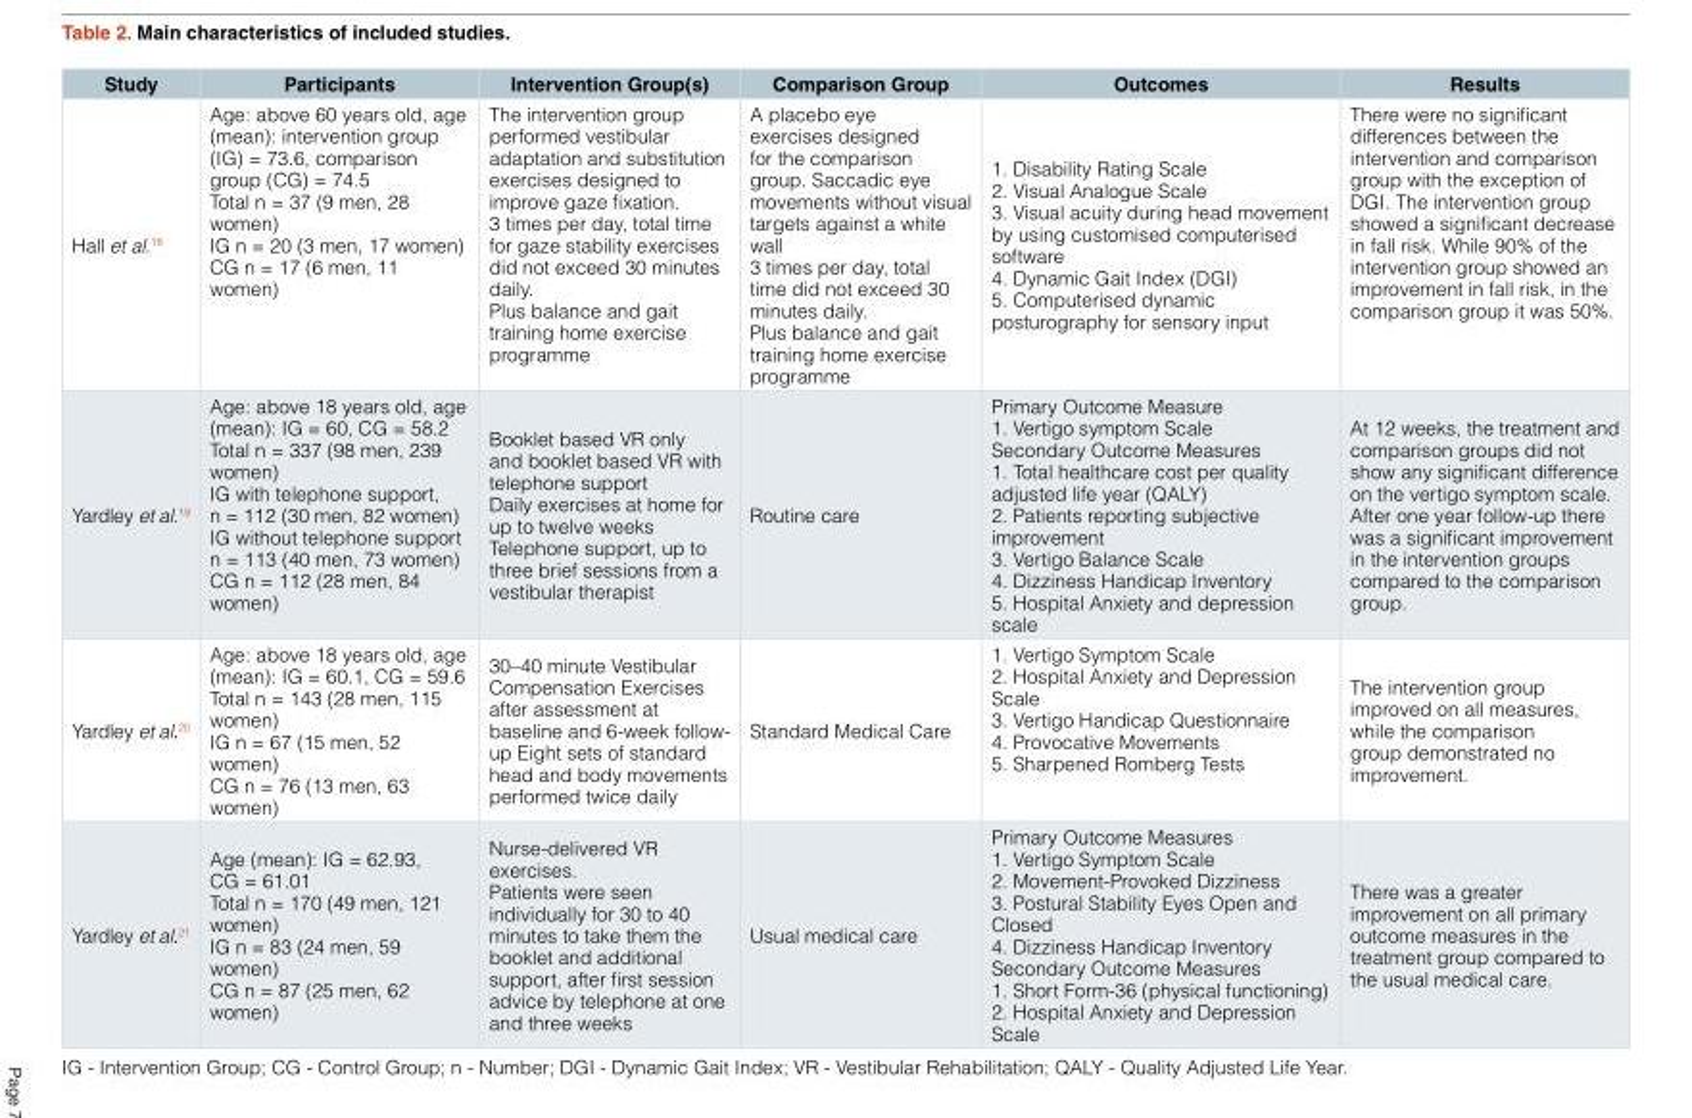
<table><thead><tr><td>Study</td><td>Participants</td><td>Intervention Group(s)</td><td>Comparison Group</td><td>Outcomes</td><td>Results</td></tr></thead><tbody><tr><td>Hall et al.<sup>18</sup></td><td>Age: above 60 years old, age (mean): intervention group (IG) = 73.6, comparison group (CG) = 74.5 Total n = 37 (9 men, 28 women) IG n = 20 (3 men, 17 women) CG n = 17 (6 men, 11 women)</td><td>The intervention group performed vestibular adaptation and substitution exercises designed to improve gaze fixation. 3 times per day, total time for gaze stability exercises did not exceed 30 minutes daily. Plus balance and gait training home exercise programme</td><td>A placebo eye exercises designed for the comparison group. Saccadic eye movements without visual targets against a white wall 3 times per day, total time did not exceed 30 minutes daily. Plus balance and gait training home exercise programme</td><td>1. Disability Rating Scale 2. Visual Analogue Scale 3. Visual acuity during head movement by using customised computerised software 4. Dynamic Gait Index (DGI) 5. Computerised dynamic posturography for sensory input</td><td>There were no significant differences between the intervention and comparison group with the exception of DGI. The intervention group showed a significant decrease in fall risk. While 90% of the intervention group showed an improvement in fall risk, in the comparison group it was 50%.</td></tr><tr><td>Yardley et al.<sup>19</sup></td><td>Age: above 18 years old, age (mean): IG = 60, CG = 58.2 Total n = 337 (98 men, 239 women) IG with telephone support, n = 112 (30 men, 82 women) IG without telephone support n = 113 (40 men, 73 women) CG n = 112 (28 men, 84 women)</td><td>Booklet based VR only and booklet based VR with telephone support Daily exercises at home for up to twelve weeks Telephone support, up to three brief sessions from a vestibular therapist</td><td>Routine care</td><td>Primary Outcome Measure 1. Vertigo symptom Scale Secondary Outcome Measures 1. Total healthcare cost per quality adjusted life year (QALY) 2. Patients reporting subjective improvement 3. Vertigo Balance Scale 4. Dizziness Handicap Inventory 5. Hospital Anxiety and depression scale</td><td>At 12 weeks, the treatment and comparison groups did not show any significant difference on the vertigo symptom scale. After one year follow-up there was a significant improvement in the intervention groups compared to the comparison group.</td></tr><tr><td>Yardley et al.<sup>20</sup></td><td>Age: above 18 years old, age (mean): IG = 60.1, CG = 59.6 Total n = 143 (28 men, 115 women) IG n = 67 (15 men, 52 women) CG n = 76 (13 men, 63 women)</td><td>30–40 minute Vestibular Compensation Exercises after assessment at baseline and 6-week follow- up Eight sets of standard head and body movements performed twice daily</td><td>Standard Medical Care</td><td>1. Vertigo Symptom Scale 2. Hospital Anxiety and Depression Scale 3. Vertigo Handicap Questionnaire 4. Provocative Movements 5. Sharpened Romberg Tests</td><td>The intervention group improved on all measures, while the comparison group demonstrated no improvement.</td></tr><tr><td>Yardley et al.<sup>21</sup></td><td>Age (mean): IG = 62.93, CG = 61.01 Total n = 170 (49 men, 121 women) IG n = 83 (24 men, 59 women) CG n = 87 (25 men, 62 women)</td><td>Nurse-delivered VR exercises. Patients were seen individually for 30 to 40 minutes to take them the booklet and additional support, after first session advice by telephone at one and three weeks</td><td>Usual medical care</td><td>Primary Outcome Measures 1. Vertigo Symptom Scale 2. Movement-Provoked Dizziness 3. Postural Stability Eyes Open and Closed 4. Dizziness Handicap Inventory Secondary Outcome Measures 1. Short Form-36 (physical functioning) 2. Hospital Anxiety and Depression Scale</td><td>There was a greater improvement on all primary outcome measures in the treatment group compared to the usual medical care.</td></tr></tbody></table>